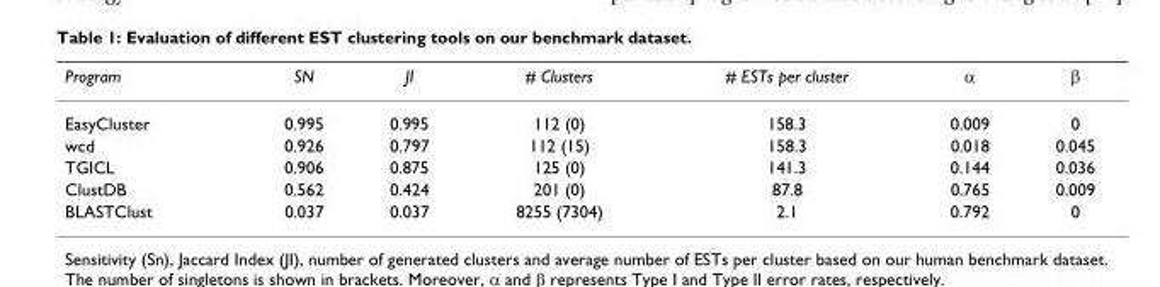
<table><thead><tr><td>Program</td><td>SN</td><td>JI</td><td># Clusters</td><td># ESTs per cluster</td><td>α</td><td>β</td></tr></thead><tbody><tr><td>EasyCluster</td><td>0.995</td><td>0.995</td><td>112 (0)</td><td>158.3</td><td>0.009</td><td>0</td></tr><tr><td>wcd</td><td>0.926</td><td>0.797</td><td>112 (15)</td><td>158.3</td><td>0.018</td><td>0.045</td></tr><tr><td>TGICL</td><td>0.906</td><td>0.875</td><td>125 (0)</td><td>141.3</td><td>0.144</td><td>0.036</td></tr><tr><td>ClustDB</td><td>0.562</td><td>0.424</td><td>201 (0)</td><td>87.8</td><td>0.765</td><td>0.009</td></tr><tr><td>BLASTClust</td><td>0.037</td><td>0.037</td><td>8255 (7304)</td><td>2.1</td><td>0.792</td><td>0</td></tr></tbody></table>